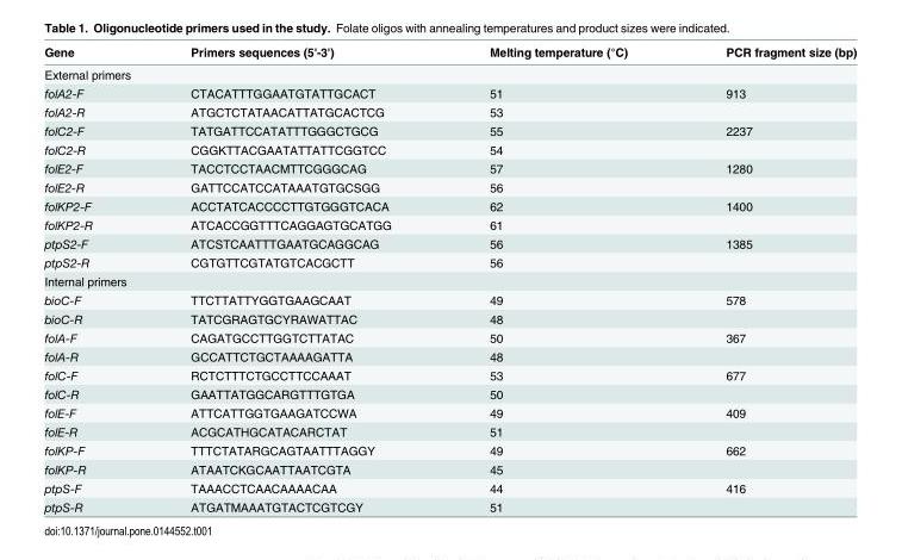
<table><thead><tr><td>Gene</td><td>Primers sequences (5&#x27;-3&#x27;)</td><td>Melting temperature (°C)</td><td>PCR fragment size (bp)</td></tr></thead><tbody><tr><td colspan="4">External primers</td></tr><tr><td>folA2-F</td><td>CTACATTTGGAATGTATTGCACT</td><td>51</td><td>913</td></tr><tr><td>folA2-R</td><td>ATGCTCTATAACATTATGCACTCG</td><td>53</td><td></td></tr><tr><td>folC2-F</td><td>TATGATTCCATATTTGGGCTGCG</td><td>55</td><td>2237</td></tr><tr><td>folC2-R</td><td>CGGKTTACGAATATTATTCGGTCC</td><td>54</td><td></td></tr><tr><td>folE2-F</td><td>TACCTCCTAACMTTCGGGCAG</td><td>57</td><td>1280</td></tr><tr><td>folE2-R</td><td>GATTCCATCCATAAATGTGCSGG</td><td>56</td><td></td></tr><tr><td>folKP2-F</td><td>ACCTATCACCCCTTGTGGGTCACA</td><td>62</td><td>1400</td></tr><tr><td>folKP2-R</td><td>ATCACCGGTTTCAGGAGTGCATGG</td><td>61</td><td></td></tr><tr><td>ptpS2-F</td><td>ATCSTCAATTTGAATGCAGGCAG</td><td>56</td><td>1385</td></tr><tr><td>ptpS2-R</td><td>CGTGTTCGTATGTCACGCTT</td><td>56</td><td></td></tr><tr><td colspan="4">Internal primers</td></tr><tr><td>bioC-F</td><td>TTCTTATTYGGTGAAGCAAT</td><td>49</td><td>578</td></tr><tr><td>bioC-R</td><td>TATCGRAGTGCYRAWATTAC</td><td>48</td><td></td></tr><tr><td>folA-F</td><td>CAGATGCCTTGGTCTTATAC</td><td>50</td><td>367</td></tr><tr><td>folA-R</td><td>GCCATTCTGCTAAAAGATTA</td><td>48</td><td></td></tr><tr><td>folC-F</td><td>RCTCTTTCTGCCTTCCAAAT</td><td>53</td><td>677</td></tr><tr><td>folC-R</td><td>GAATTATGGCARGTTTGTGA</td><td>50</td><td></td></tr><tr><td>folE-F</td><td>ATTCATTGGTGAAGATCCWA</td><td>49</td><td>409</td></tr><tr><td>folE-R</td><td>ACGCATHGCATACARCTAT</td><td>51</td><td></td></tr><tr><td>folKP-F</td><td>TTTCTATARGCAGTAATTTAGGY</td><td>49</td><td>662</td></tr><tr><td>folKP-R</td><td>ATAATCKGCAATTAATCGTA</td><td>45</td><td></td></tr><tr><td>ptpS-F</td><td>TAAACCTCAACAAAACAA</td><td>44</td><td>416</td></tr><tr><td>ptpS-R</td><td>ATGATMAAATGTACTCGTCGY</td><td>51</td><td></td></tr></tbody></table>